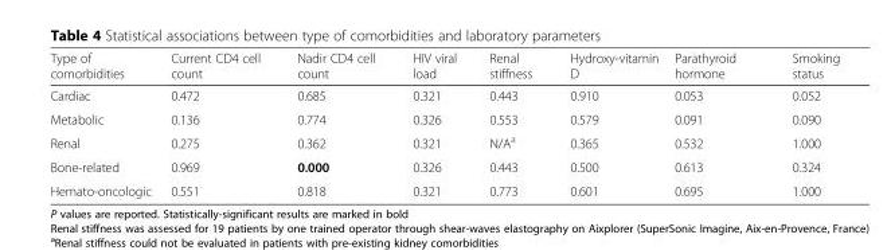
<table><thead><tr><td>Type of comorbidities</td><td>Current CD4 cell count</td><td>Nadir CD4 cell count</td><td>HIV viral load</td><td>Renal stiffness</td><td>Hydroxy-vitamin D</td><td>Parathyroid hormone</td><td>Smoking status</td></tr></thead><tbody><tr><td>Cardiac</td><td>0.472</td><td>0.685</td><td>0.321</td><td>0.443</td><td>0.910</td><td>0.053</td><td>0.052</td></tr><tr><td>Metabolic</td><td>0.136</td><td>0.774</td><td>0.326</td><td>0.553</td><td>0.579</td><td>0.091</td><td>0.090</td></tr><tr><td>Renal</td><td>0.275</td><td>0.362</td><td>0.321</td><td>N/A<sup>a</sup></td><td>0.365</td><td>0.532</td><td>1.000</td></tr><tr><td>Bone-related</td><td>0.969</td><td>0.000</td><td>0.326</td><td>0.443</td><td>0.500</td><td>0.613</td><td>0.324</td></tr><tr><td>Hemato-oncologic</td><td>0.551</td><td>0.818</td><td>0.321</td><td>0.773</td><td>0.601</td><td>0.695</td><td>1.000</td></tr></tbody></table>